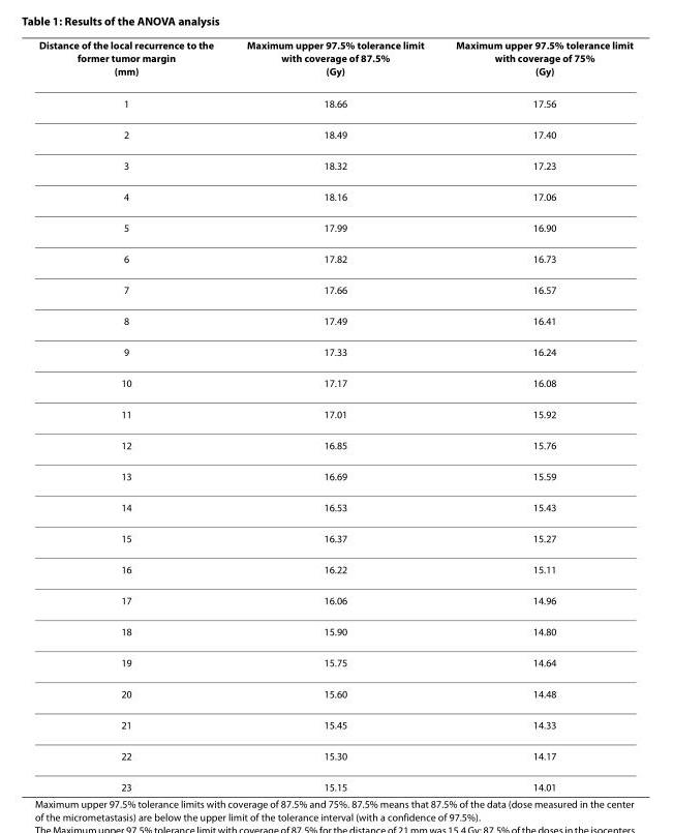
<table><thead><tr><td>Distance of the local recurrence to the former tumor margin (mm)</td><td>Maximum upper 97.5% tolerance limit with coverage of 87.5% (Gy)</td><td>Maximum upper 97.5% tolerance limit with coverage of 75% (Gy)</td></tr></thead><tbody><tr><td>1</td><td>18.66</td><td>17.56</td></tr><tr><td>2</td><td>18.49</td><td>17.40</td></tr><tr><td>3</td><td>18.32</td><td>17.23</td></tr><tr><td>4</td><td>18.16</td><td>17.06</td></tr><tr><td>5</td><td>17.99</td><td>16.90</td></tr><tr><td>6</td><td>17.82</td><td>16.73</td></tr><tr><td>7</td><td>17.66</td><td>16.57</td></tr><tr><td>8</td><td>17.49</td><td>16.41</td></tr><tr><td>9</td><td>17.33</td><td>16.24</td></tr><tr><td>10</td><td>17.17</td><td>16.08</td></tr><tr><td>11</td><td>17.01</td><td>15.92</td></tr><tr><td>12</td><td>16.85</td><td>15.76</td></tr><tr><td>13</td><td>16.69</td><td>15.59</td></tr><tr><td>14</td><td>16.53</td><td>15.43</td></tr><tr><td>15</td><td>16.37</td><td>15.27</td></tr><tr><td>16</td><td>16.22</td><td>15.11</td></tr><tr><td>17</td><td>16.06</td><td>14.96</td></tr><tr><td>18</td><td>15.90</td><td>14.80</td></tr><tr><td>19</td><td>15.75</td><td>14.64</td></tr><tr><td>20</td><td>15.60</td><td>14.48</td></tr><tr><td>21</td><td>15.45</td><td>14.33</td></tr><tr><td>22</td><td>15.30</td><td>14.17</td></tr><tr><td>23</td><td>15.15</td><td>14.01</td></tr></tbody></table>